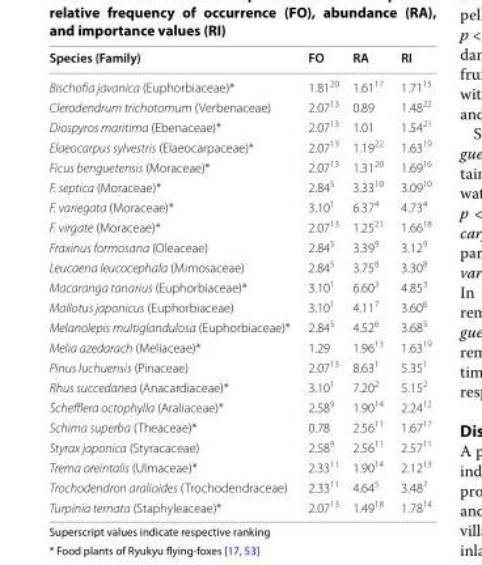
<table><thead><tr><td>Species (Family)</td><td>FO</td><td>RA</td><td>RI</td></tr></thead><tbody><tr><td>Bischofia javanica (Euphorbiaceae)*</td><td>1.81<sup>20</sup></td><td>1.61<sup>17</sup></td><td>1.71<sup>15</sup></td></tr><tr><td>Clerodendrum trichotomum (Verbenaceae)</td><td>2.07<sup>13</sup></td><td>0.89</td><td>1.48<sup>22</sup></td></tr><tr><td>Diospyros maritima (Ebenaceae)*</td><td>2.07<sup>13</sup></td><td>1.01</td><td>1.54<sup>21</sup></td></tr><tr><td>Elaeocarpus sylvestris (Elaeocarpaceae)*</td><td>2.07<sup>13</sup></td><td>1.19<sup>22</sup></td><td>1.63<sup>19</sup></td></tr><tr><td>Ficus benguetensis (Moraceae)*</td><td>2.07<sup>13</sup></td><td>1.31<sup>20</sup></td><td>1.69<sup>16</sup></td></tr><tr><td>F. septica (Moraceae)*</td><td>2.84<sup>5</sup></td><td>3.33<sup>10</sup></td><td>3.09<sup>10</sup></td></tr><tr><td>F. variegata (Moraceae)*</td><td>3.10<sup>1</sup></td><td>6.37<sup>4</sup></td><td>4.73<sup>4</sup></td></tr><tr><td>F. virgate (Moraceae)*</td><td>2.07<sup>13</sup></td><td>1.25<sup>21</sup></td><td>1.66<sup>18</sup></td></tr><tr><td>Fraxinus formosana (Oleaceae)</td><td>2.84<sup>5</sup></td><td>3.39<sup>9</sup></td><td>3.12<sup>9</sup></td></tr><tr><td>Leucaena leucocephala (Mimosaceae)</td><td>2.84<sup>5</sup></td><td>3.75<sup>8</sup></td><td>3.30<sup>8</sup></td></tr><tr><td>Macaranga tanarius (Euphorbiaceae)*</td><td>3.10<sup>1</sup></td><td>6.60<sup>3</sup></td><td>4.85<sup>3</sup></td></tr><tr><td>Mallotus japonicus (Euphorbiaceae)</td><td>3.10<sup>1</sup></td><td>4.11<sup>7</sup></td><td>3.60<sup>6</sup></td></tr><tr><td>Melanolepis multiglandulosa (Euphorbiaceae)*</td><td>2.84<sup>5</sup></td><td>4.52<sup>6</sup></td><td>3.68<sup>5</sup></td></tr><tr><td>Melia azedarach (Meliaceae)*</td><td>1.29</td><td>1.96<sup>13</sup></td><td>1.63<sup>19</sup></td></tr><tr><td>Pinus luchuensis (Pinaceae)</td><td>2.07<sup>13</sup></td><td>8.63<sup>1</sup></td><td>5.35<sup>1</sup></td></tr><tr><td>Rhus succedanea (Anacardiaceae)*</td><td>3.10<sup>1</sup></td><td>7.20<sup>2</sup></td><td>5.15<sup>2</sup></td></tr><tr><td>Schefflera octophylla (Araliaceae)*</td><td>2.58<sup>9</sup></td><td>1.90<sup>14</sup></td><td>2.24<sup>12</sup></td></tr><tr><td>Schima superba (Theaceae)*</td><td>0.78</td><td>2.56<sup>11</sup></td><td>1.67<sup>17</sup></td></tr><tr><td>Styrax japonica (Styracaceae)</td><td>2.58<sup>9</sup></td><td>2.56<sup>11</sup></td><td>2.57<sup>11</sup></td></tr><tr><td>Trema oreintalis (Ulmaceae)*</td><td>2.33<sup>11</sup></td><td>1.90<sup>14</sup></td><td>2.12<sup>13</sup></td></tr><tr><td>Trochodendron aralioides (Trochodendraceae)</td><td>2.33<sup>11</sup></td><td>4.64<sup>5</sup></td><td>3.48<sup>7</sup></td></tr><tr><td>Turpinia ternata (Staphyleaceae)*</td><td>2.07<sup>13</sup></td><td>1.49<sup>18</sup></td><td>1.78<sup>14</sup></td></tr></tbody></table>